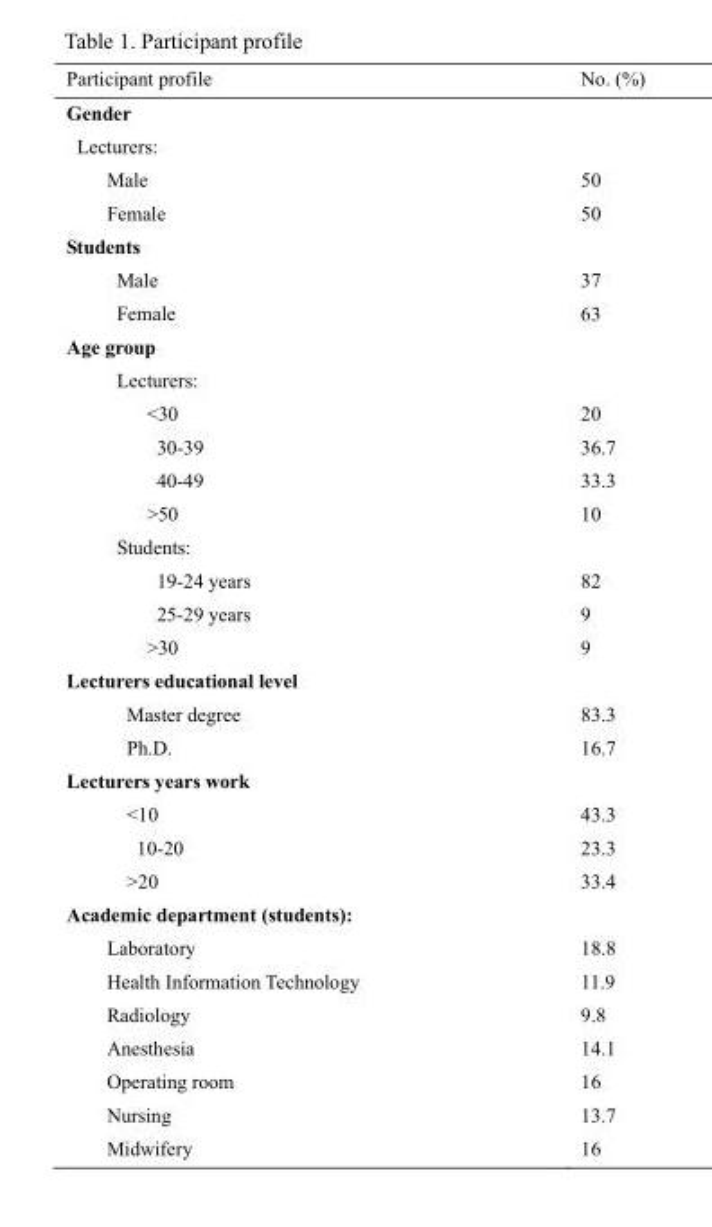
<table><thead><tr><td>Participant profile</td><td>No. (%)</td></tr></thead><tbody><tr><td colspan="2">Gender</td></tr><tr><td colspan="2">Lecturers:</td></tr><tr><td>Male</td><td>50</td></tr><tr><td>Female</td><td>50</td></tr><tr><td colspan="2">Students</td></tr><tr><td>Male</td><td>37</td></tr><tr><td>Female</td><td>63</td></tr><tr><td colspan="2">Age group</td></tr><tr><td colspan="2">Lecturers:</td></tr><tr><td>&lt;30</td><td>20</td></tr><tr><td>30-39</td><td>36.7</td></tr><tr><td>40-49</td><td>33.3</td></tr><tr><td>&gt;50</td><td>10</td></tr><tr><td colspan="2">Students:</td></tr><tr><td>19-24 years</td><td>82</td></tr><tr><td>25-29 years</td><td>9</td></tr><tr><td>&gt;30</td><td>9</td></tr><tr><td colspan="2">Lecturers educational level</td></tr><tr><td>Master degree</td><td>83.3</td></tr><tr><td>Ph.D.</td><td>16.7</td></tr><tr><td colspan="2">Lecturers years work</td></tr><tr><td>&lt;10</td><td>43.3</td></tr><tr><td>10-20</td><td>23.3</td></tr><tr><td>&gt;20</td><td>33.4</td></tr><tr><td colspan="2">Academic department (students):</td></tr><tr><td>Laboratory</td><td>18.8</td></tr><tr><td>Health Information Technology</td><td>11.9</td></tr><tr><td>Radiology</td><td>9.8</td></tr><tr><td>Anesthesia</td><td>14.1</td></tr><tr><td>Operating room</td><td>16</td></tr><tr><td>Nursing</td><td>13.7</td></tr><tr><td>Midwifery</td><td>16</td></tr></tbody></table>